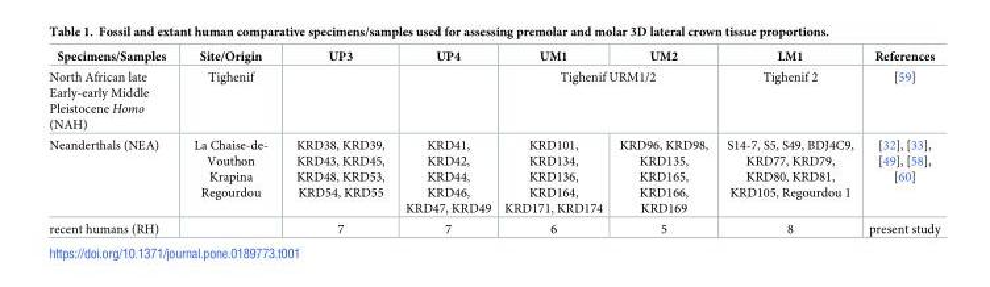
<table><thead><tr><td>Specimens/Samples</td><td>Site/Origin</td><td>UP3</td><td>UP4</td><td>UM1</td><td>UM2</td><td>LM1</td><td>References</td></tr></thead><tbody><tr><td>North African late Early-early Middle Pleistocene Homo (NAH)</td><td>Tighenif</td><td></td><td></td><td colspan="2">Tighenif URM1/2</td><td>Tighenif 2</td><td>[59]</td></tr><tr><td>Neanderthals (NEA)</td><td>La Chaise-de- Vouthon Krapina Regourdou</td><td>KRD38, KRD39, KRD43, KRD45, KRD48, KRD53, KRD54, KRD55</td><td>KRD41, KRD42, KRD44, KRD46, KRD47, KRD49</td><td>KRD101, KRD134, KRD136, KRD164, KRD171, KRD174</td><td>KRD96, KRD98, KRD135, KRD165, KRD166, KRD169</td><td>S14-7, S5, S49, BDJ4C9, KRD77, KRD79, KRD80, KRD81, KRD105, Regourdou 1</td><td>[32], [33], [49], [58], [60]</td></tr><tr><td>recent humans (RH)</td><td></td><td>7</td><td>7</td><td>6</td><td>5</td><td>8</td><td>present study</td></tr></tbody></table>